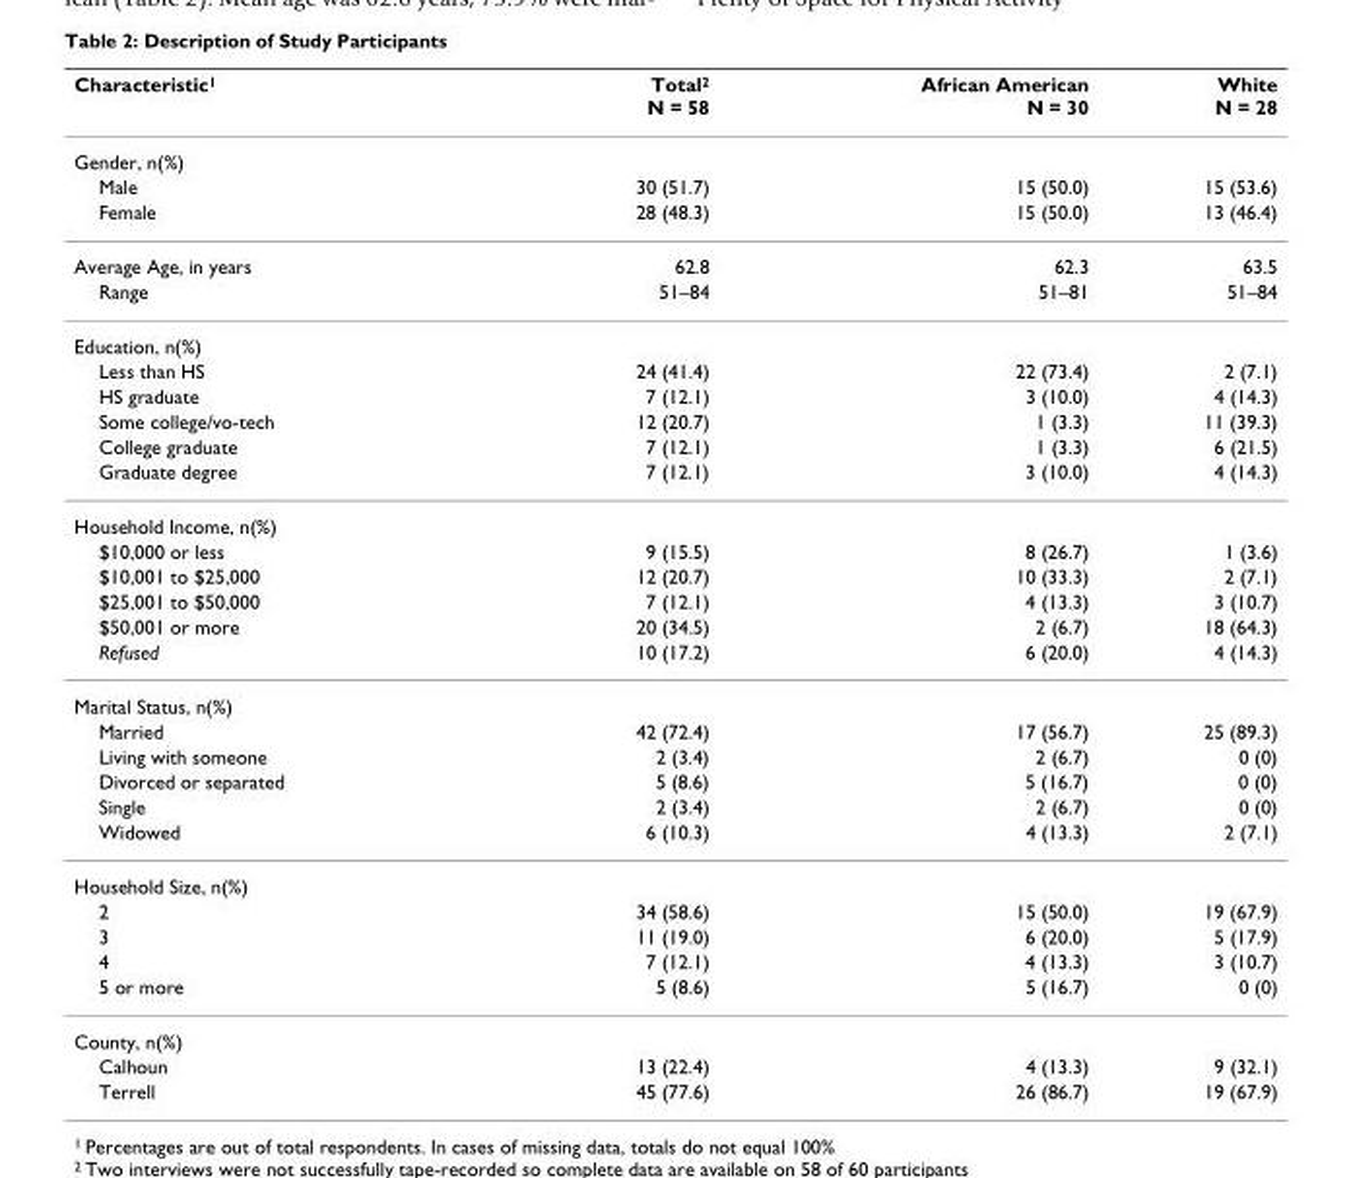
<table><thead><tr><td>Characteristic<sup>1</sup></td><td>Total<sup>2</sup> N = 58</td><td>African American N = 30</td><td>White N = 28</td></tr></thead><tbody><tr><td colspan="4">Gender, n(%)</td></tr><tr><td>Male</td><td>30 (51.7)</td><td>15 (50.0)</td><td>15 (53.6)</td></tr><tr><td>Female</td><td>28 (48.3)</td><td>15 (50.0)</td><td>13 (46.4)</td></tr><tr><td>Average Age, in years</td><td>62.8</td><td>62.3</td><td>63.5</td></tr><tr><td>Range</td><td>51–84</td><td>51–81</td><td>51–84</td></tr><tr><td colspan="4">Education, n(%)</td></tr><tr><td>Less than HS</td><td>24 (41.4)</td><td>22 (73.4)</td><td>2 (7.1)</td></tr><tr><td>HS graduate</td><td>7 (12.1)</td><td>3 (10.0)</td><td>4 (14.3)</td></tr><tr><td>Some college/vo-tech</td><td>12 (20.7)</td><td>1 (3.3)</td><td>11 (39.3)</td></tr><tr><td>College graduate</td><td>7 (12.1)</td><td>1 (3.3)</td><td>6 (21.5)</td></tr><tr><td>Graduate degree</td><td>7 (12.1)</td><td>3 (10.0)</td><td>4 (14.3)</td></tr><tr><td colspan="4">Household Income, n(%)</td></tr><tr><td>$10,000 or less</td><td>9 (15.5)</td><td>8 (26.7)</td><td>1 (3.6)</td></tr><tr><td>$10,001 to $25,000</td><td>12 (20.7)</td><td>10 (33.3)</td><td>2 (7.1)</td></tr><tr><td>$25,001 to $50,000</td><td>7 (12.1)</td><td>4 (13.3)</td><td>3 (10.7)</td></tr><tr><td>$50,001 or more</td><td>20 (34.5)</td><td>2 (6.7)</td><td>18 (64.3)</td></tr><tr><td>Refused</td><td>10 (17.2)</td><td>6 (20.0)</td><td>4 (14.3)</td></tr><tr><td colspan="4">Marital Status, n(%)</td></tr><tr><td>Married</td><td>42 (72.4)</td><td>17 (56.7)</td><td>25 (89.3)</td></tr><tr><td>Living with someone</td><td>2 (3.4)</td><td>2 (6.7)</td><td>0 (0)</td></tr><tr><td>Divorced or separated</td><td>5 (8.6)</td><td>5 (16.7)</td><td>0 (0)</td></tr><tr><td>Single</td><td>2 (3.4)</td><td>2 (6.7)</td><td>0 (0)</td></tr><tr><td>Widowed</td><td>6 (10.3)</td><td>4 (13.3)</td><td>2 (7.1)</td></tr><tr><td colspan="4">Household Size, n(%)</td></tr><tr><td>2</td><td>34 (58.6)</td><td>15 (50.0)</td><td>19 (67.9)</td></tr><tr><td>3</td><td>11 (19.0)</td><td>6 (20.0)</td><td>5 (17.9)</td></tr><tr><td>4</td><td>7 (12.1)</td><td>4 (13.3)</td><td>3 (10.7)</td></tr><tr><td>5 or more</td><td>5 (8.6)</td><td>5 (16.7)</td><td>0 (0)</td></tr><tr><td colspan="4">County, n(%)</td></tr><tr><td>Calhoun</td><td>13 (22.4)</td><td>4 (13.3)</td><td>9 (32.1)</td></tr><tr><td>Terrell</td><td>45 (77.6)</td><td>26 (86.7)</td><td>19 (67.9)</td></tr></tbody></table>